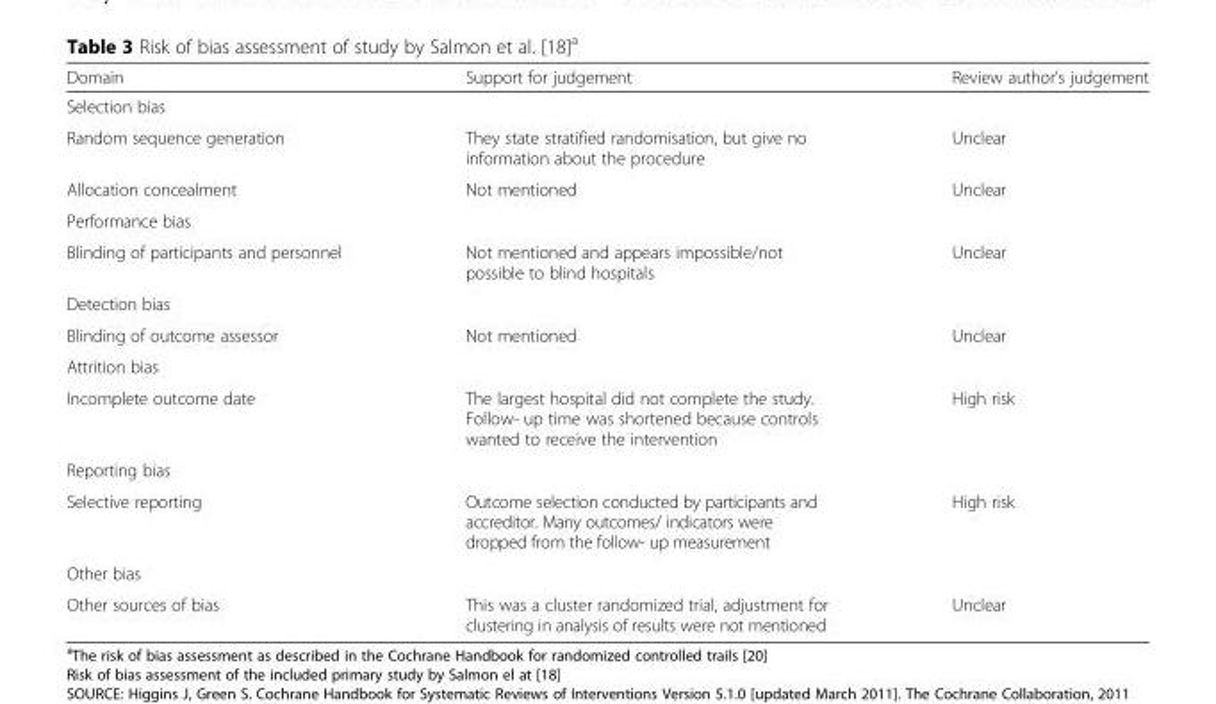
<table><thead><tr><td>Domain</td><td>Support for judgement</td><td>Review author’s judgement</td></tr></thead><tbody><tr><td colspan="3">Selection bias</td></tr><tr><td>Random sequence generation</td><td>They state stratified randomisation, but give no information about the procedure</td><td>Unclear</td></tr><tr><td>Allocation concealment</td><td>Not mentioned</td><td>Unclear</td></tr><tr><td colspan="3">Performance bias</td></tr><tr><td>Blinding of participants and personnel</td><td>Not mentioned and appears impossible/not possible to blind hospitals</td><td>Unclear</td></tr><tr><td colspan="3">Detection bias</td></tr><tr><td>Blinding of outcome assessor</td><td>Not mentioned</td><td>Unclear</td></tr><tr><td colspan="3">Attrition bias</td></tr><tr><td>Incomplete outcome date</td><td>The largest hospital did not complete the study. Follow- up time was shortened because controls wanted to receive the intervention</td><td>High risk</td></tr><tr><td colspan="3">Reporting bias</td></tr><tr><td>Selective reporting</td><td>Outcome selection conducted by participants and accreditor. Many outcomes/ indicators were dropped from the follow- up measurement</td><td>High risk</td></tr><tr><td colspan="3">Other bias</td></tr><tr><td>Other sources of bias</td><td>This was a cluster randomized trial, adjustment for clustering in analysis of results were not mentioned</td><td>Unclear</td></tr></tbody></table>